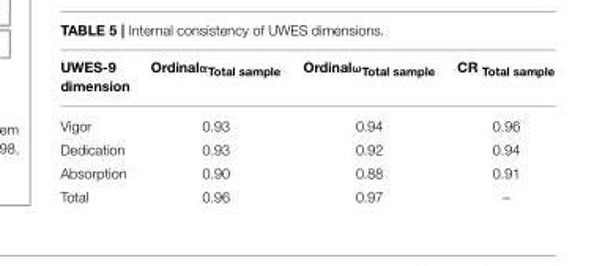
<table><thead><tr><td>UWES-9 dimension</td><td>Ordinalα<sub>Total sample</sub></td><td>Ordinalω<sub>Total sample</sub></td><td>CR <sub>Total sample</sub></td></tr></thead><tbody><tr><td>Vigor</td><td>0.93</td><td>0.94</td><td>0.96</td></tr><tr><td>Dedication</td><td>0.93</td><td>0.92</td><td>0.94</td></tr><tr><td>Absorption</td><td>0.90</td><td>0.88</td><td>0.91</td></tr><tr><td>Total</td><td>0.96</td><td>0.97</td><td>–</td></tr></tbody></table>